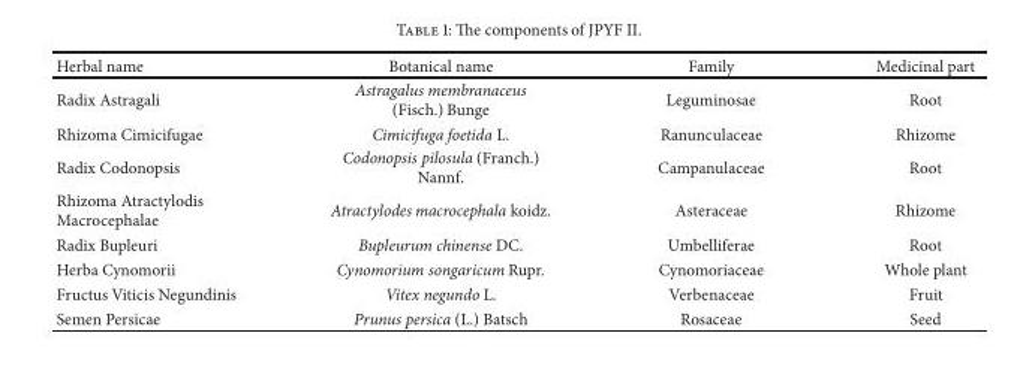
<table><thead><tr><td>Herbal name</td><td>Botanical name</td><td>Family</td><td>Medicinal part</td></tr></thead><tbody><tr><td>Radix Astragali</td><td>Astragalus membranaceus (Fisch.) Bunge</td><td>Leguminosae</td><td>Root</td></tr><tr><td>Rhizoma Cimicifugae</td><td>Cimicifuga foetida L.</td><td>Ranunculaceae</td><td>Rhizome</td></tr><tr><td>Radix Codonopsis</td><td>Codonopsis pilosula (Franch.) Nannf.</td><td>Campanulaceae</td><td>Root</td></tr><tr><td>Rhizoma Atractylodis Macrocephalae</td><td>Atractylodes macrocephala koidz.</td><td>Asteraceae</td><td>Rhizome</td></tr><tr><td>Radix Bupleuri</td><td>Bupleurum chinense DC.</td><td>Umbelliferae</td><td>Root</td></tr><tr><td>Herba Cynomorii</td><td>Cynomorium songaricum Rupr.</td><td>Cynomoriaceae</td><td>Whole plant</td></tr><tr><td>Fructus Viticis Negundinis</td><td>Vitex negundo L.</td><td>Verbenaceae</td><td>Fruit</td></tr><tr><td>Semen Persicae</td><td>Prunus persica (L.) Batsch</td><td>Rosaceae</td><td>Seed</td></tr></tbody></table>